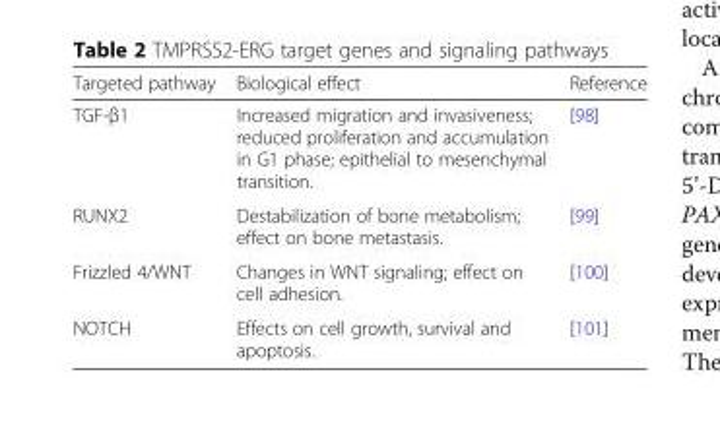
<table><thead><tr><td>Targeted pathway</td><td>Biological effect</td><td>Reference</td></tr></thead><tbody><tr><td>TGF-β1</td><td>Increased migration and invasiveness; reduced proliferation and accumulation in G1 phase; epithelial to mesenchymal transition.</td><td>[98]</td></tr><tr><td>RUNX2</td><td>Destabilization of bone metabolism; effect on bone metastasis.</td><td>[99]</td></tr><tr><td>Frizzled 4/WNT</td><td>Changes in WNT signaling; effect on cell adhesion.</td><td>[100]</td></tr><tr><td>NOTCH</td><td>Effects on cell growth, survival and apoptosis.</td><td>[101]</td></tr></tbody></table>